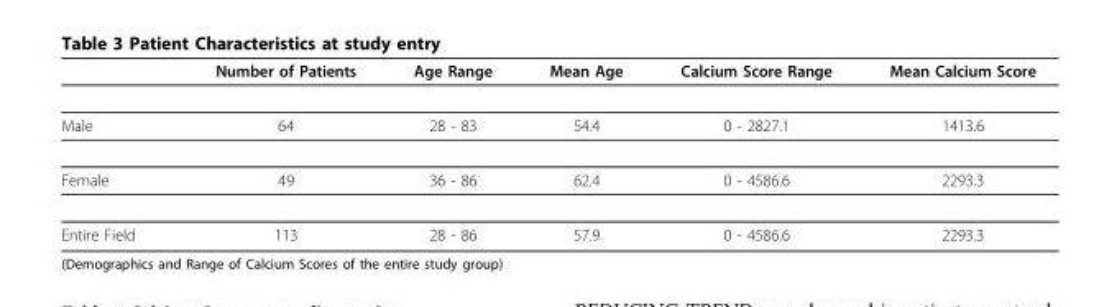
<table><thead><tr><td></td><td>Number of Patients</td><td>Age Range</td><td>Mean Age</td><td>Calcium Score Range</td><td>Mean Calcium Score</td></tr></thead><tbody><tr><td>Male</td><td>64</td><td>28 - 83</td><td>54.4</td><td>0 - 2827.1</td><td>1413.6</td></tr><tr><td>Female</td><td>49</td><td>36 - 86</td><td>62.4</td><td>0 - 4586.6</td><td>2293.3</td></tr><tr><td>Entire Field</td><td>113</td><td>28 - 86</td><td>57.9</td><td>0 - 4586.6</td><td>2293.3</td></tr></tbody></table>